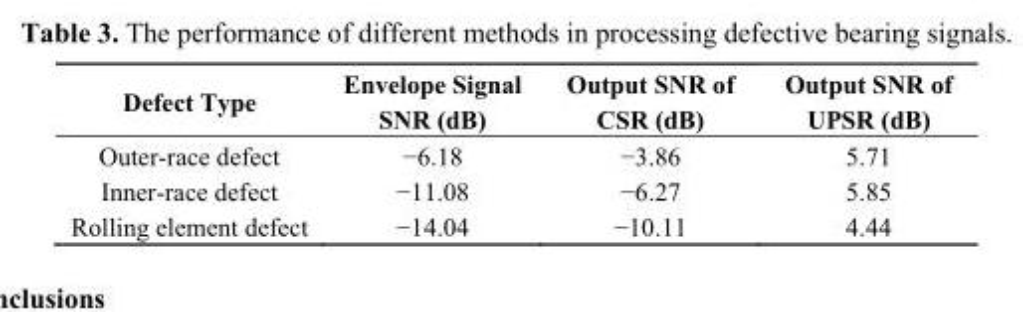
<table><thead><tr><td>Defect Type</td><td>Envelope Signal SNR (dB)</td><td>Output SNR of CSR (dB)</td><td>Output SNR of UPSR (dB)</td></tr></thead><tbody><tr><td>Outer-race defect</td><td>−6.18</td><td>−3.86</td><td>5.71</td></tr><tr><td>Inner-race defect</td><td>−11.08</td><td>−6.27</td><td>5.85</td></tr><tr><td>Rolling element defect</td><td>−14.04</td><td>−10.11</td><td>4.44</td></tr></tbody></table>